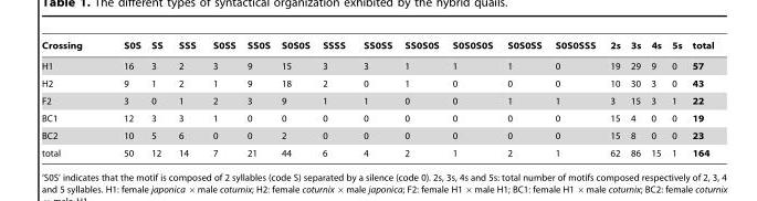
<table><thead><tr><td>Crossing</td><td>S0S</td><td>SS</td><td>SSS</td><td>S0SS</td><td>SS0S</td><td>S0S0S</td><td>SSSS</td><td>SS0SS</td><td>SS0S0S</td><td>S0S0S0S</td><td>S0S0SS</td><td>S0S0SSS</td><td>2s</td><td>3s</td><td>4s</td><td>5s</td><td>total</td></tr></thead><tbody><tr><td>H1</td><td>16</td><td>3</td><td>2</td><td>3</td><td>9</td><td>15</td><td>3</td><td>3</td><td>1</td><td>1</td><td>1</td><td>0</td><td>19</td><td>29</td><td>9</td><td>0</td><td>57</td></tr><tr><td>H2</td><td>9</td><td>1</td><td>2</td><td>1</td><td>9</td><td>18</td><td>2</td><td>0</td><td>1</td><td>0</td><td>0</td><td>0</td><td>10</td><td>30</td><td>3</td><td>0</td><td>43</td></tr><tr><td>F2</td><td>3</td><td>0</td><td>1</td><td>2</td><td>3</td><td>9</td><td>1</td><td>1</td><td>0</td><td>0</td><td>1</td><td>1</td><td>3</td><td>15</td><td>3</td><td>1</td><td>22</td></tr><tr><td>BC1</td><td>12</td><td>3</td><td>3</td><td>1</td><td>0</td><td>0</td><td>0</td><td>0</td><td>0</td><td>0</td><td>0</td><td>0</td><td>15</td><td>4</td><td>0</td><td>0</td><td>19</td></tr><tr><td>BC2</td><td>10</td><td>5</td><td>6</td><td>0</td><td>0</td><td>2</td><td>0</td><td>0</td><td>0</td><td>0</td><td>0</td><td>0</td><td>15</td><td>8</td><td>0</td><td>0</td><td>23</td></tr><tr><td>total</td><td>50</td><td>12</td><td>14</td><td>7</td><td>21</td><td>44</td><td>6</td><td>4</td><td>2</td><td>1</td><td>2</td><td>1</td><td>62</td><td>86</td><td>15</td><td>1</td><td>164</td></tr></tbody></table>